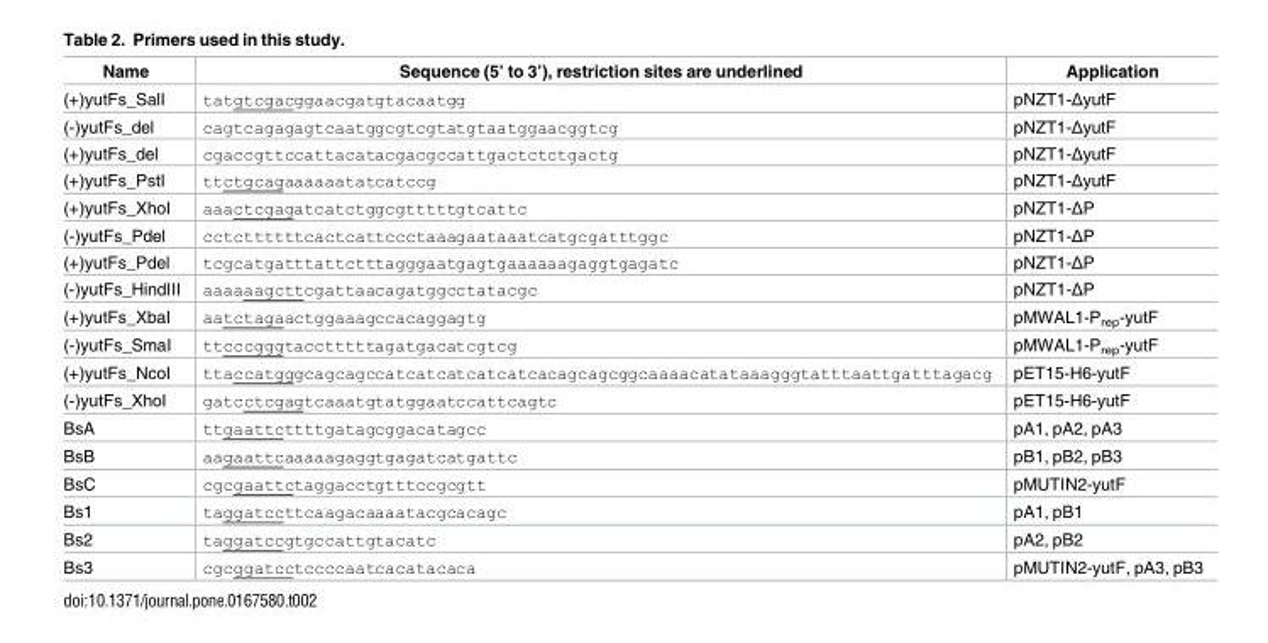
<table><thead><tr><td>Name</td><td>Sequence (5’ to 3’), restriction sites are underlined</td><td>Application</td></tr></thead><tbody><tr><td>(+)yutFs_SalI</td><td>tatgtcgacggaacgatgtacaatgg</td><td>pNZT1-ΔyutF</td></tr><tr><td>(-)yutFs_del</td><td>cagtcagagagtcaatggcgtcgtatgtaatggaacggtcg</td><td>pNZT1-ΔyutF</td></tr><tr><td>(+)yutFs_del</td><td>cgaccgttccattacatacgacgccattgactctctgactg</td><td>pNZT1-ΔyutF</td></tr><tr><td>(+)yutFs_PstI</td><td>ttctgcagaaaaaatatcatccg</td><td>pNZT1-ΔyutF</td></tr><tr><td>(+)yutFs_XhoI</td><td>aaactcgagatcatctggcgtttttgtcattc</td><td>pNZT1-ΔP</td></tr><tr><td>(-)yutFs_Pdel</td><td>cctcttttttcactcattccctaaagaataaatcatgcgatttggc</td><td>pNZT1-ΔP</td></tr><tr><td>(+)yutFs_Pdel</td><td>tcgcatgatttattctttagggaatgagtgaaaaaagaggtgagatc</td><td>pNZT1-ΔP</td></tr><tr><td>(-)yutFs_HindIII</td><td>aaaaaagcttcgattaacagatggcctatacgc</td><td>pNZT1-ΔP</td></tr><tr><td>(+)yutFs_XbaI</td><td>aatctagaactggaaagccacaggagtg</td><td>pMWAL1-P<sub>rep</sub>-yutF</td></tr><tr><td>(-)yutFs_SmaI</td><td>ttcccgggtacctttttagatgacatcgtcg</td><td>pMWAL1-P<sub>rep</sub>-yutF</td></tr><tr><td>(+)yutFs_NcoI</td><td>ttaccatgggcagcagccatcatcatcatcatcacagcagcggcaaaacatataaagggtatttaattgatttagacg</td><td>pET15-H6-yutF</td></tr><tr><td>(-)yutFs_XhoI</td><td>gatcctcgagtcaaatgtatggaatccattcagtc</td><td>pET15-H6-yutF</td></tr><tr><td>BsA</td><td>ttgaattcttttgatagcggacatagcc</td><td>pA1, pA2, pA3</td></tr><tr><td>BsB</td><td>aagaattcaaaaagaggtgagatcatgattc</td><td>pB1, pB2, pB3</td></tr><tr><td>BsC</td><td>cgcgaattctaggacctgtttccgcgtt</td><td>pMUTIN2-yutF</td></tr><tr><td>Bs1</td><td>taggatccttcaagacaaaatacgcacagc</td><td>pA1, pB1</td></tr><tr><td>Bs2</td><td>taggatccgtgccattgtacatc</td><td>pA2, pB2</td></tr><tr><td>Bs3</td><td>cgcggatcctccccaatcacatacaca</td><td>pMUTIN2-yutF, pA3, pB3</td></tr></tbody></table>